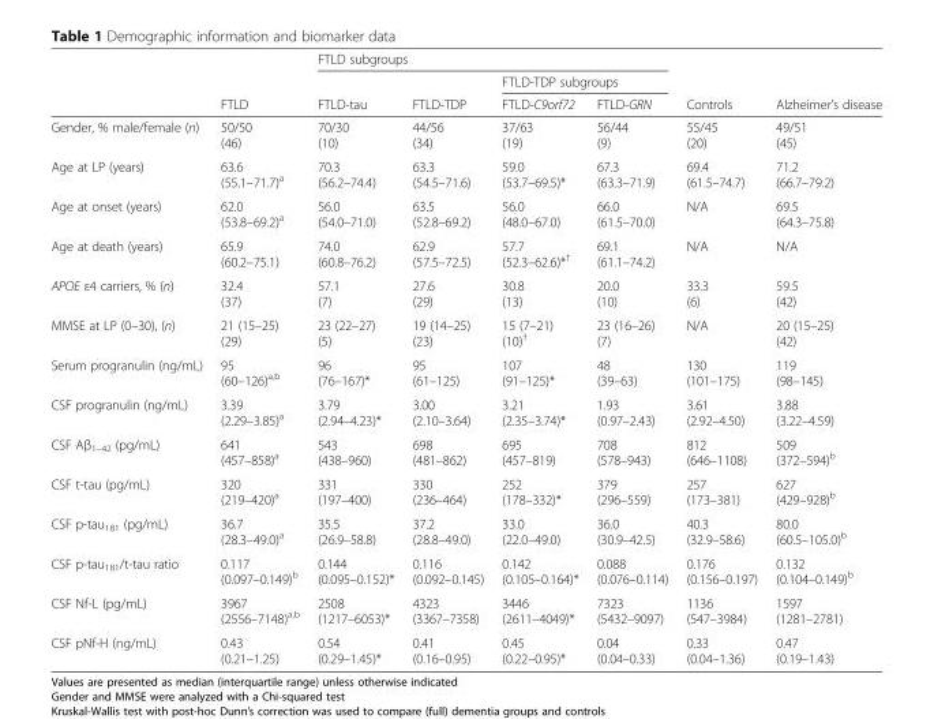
<table><thead><tr><td rowspan="3"></td><td rowspan="3">FTLD</td><td colspan="4">FTLD subgroups</td><td rowspan="3">Controls</td><td rowspan="3">Alzheimer’s disease</td></tr><tr><td rowspan="2">FTLD-tau</td><td rowspan="2">FTLD-TDP</td><td colspan="2">FTLD-TDP subgroups</td></tr><tr><td>FTLD-C9orf72</td><td>FTLD-GRN</td></tr></thead><tbody><tr><td>Gender, % male/female (n)</td><td>50/50 (46)</td><td>70/30 (10)</td><td>44/56 (34)</td><td>37/63 (19)</td><td>56/44 (9)</td><td>55/45 (20)</td><td>49/51 (45)</td></tr><tr><td>Age at LP (years)</td><td>63.6 (55.1–71.7)<sup>a</sup></td><td>70.3 (56.2–74.4)</td><td>63.3 (54.5–71.6)</td><td>59.0 (53.7–69.5)*</td><td>67.3 (63.3–71.9)</td><td>69.4 (61.5–74.7)</td><td>71.2 (66.7–79.2)</td></tr><tr><td>Age at onset (years)</td><td>62.0 (53.8–69.2)<sup>a</sup></td><td>56.0 (54.0–71.0)</td><td>63.5 (52.8–69.2)</td><td>56.0 (48.0–67.0)</td><td>66.0 (61.5–70.0)</td><td>N/A</td><td>69.5 (64.3–75.8)</td></tr><tr><td>Age at death (years)</td><td>65.9 (60.2–75.1)</td><td>74.0 (60.8–76.2)</td><td>62.9 (57.5–72.5)</td><td>57.7 (52.3–62.6)*<sup>†</sup></td><td>69.1 (61.1–74.2)</td><td>N/A</td><td>N/A</td></tr><tr><td>APOE ε4 carriers, % (n)</td><td>32.4 (37)</td><td>57.1 (7)</td><td>27.6 (29)</td><td>30.8 (13)</td><td>20.0 (10)</td><td>33.3 (6)</td><td>59.5 (42)</td></tr><tr><td>MMSE at LP (0–30), (n)</td><td>21 (15–25) (29)</td><td>23 (22–27) (5)</td><td>19 (14–25) (23)</td><td>15 (7–21) (10)<sup>†</sup></td><td>23 (16–26) (7)</td><td>N/A</td><td>20 (15–25) (42)</td></tr><tr><td>Serum progranulin (ng/mL)</td><td>95 (60–126)<sup>a,b</sup></td><td>96 (76–167)*</td><td>95 (61–125)</td><td>107 (91–125)*</td><td>48 (39–63)</td><td>130 (101–175)</td><td>119 (98–145)</td></tr><tr><td>CSF progranulin (ng/mL)</td><td>3.39 (2.29–3.85)<sup>a</sup></td><td>3.79 (2.94–4.23)*</td><td>3.00 (2.10–3.64)</td><td>3.21 (2.35–3.74)*</td><td>1.93 (0.97–2.43)</td><td>3.61 (2.92–4.50)</td><td>3.88 (3.22–4.59)</td></tr><tr><td>CSF Aβ<sub>1–42</sub> (pg/mL)</td><td>641 (457–858)<sup>a</sup></td><td>543 (438–960)</td><td>698 (481–862)</td><td>695 (457–819)</td><td>708 (578–943)</td><td>812 (646–1108)</td><td>509 (372–594)<sup>b</sup></td></tr><tr><td>CSF t-tau (pg/mL)</td><td>320 (219–420)<sup>a</sup></td><td>331 (197–400)</td><td>330 (236–464)</td><td>252 (178–332)*</td><td>379 (296–559)</td><td>257 (173–381)</td><td>627 (429–928)<sup>b</sup></td></tr><tr><td>CSF p-tau<sub>181</sub> (pg/mL)</td><td>36.7 (28.3–49.0)<sup>a</sup></td><td>35.5 (26.9–58.8)</td><td>37.2 (28.8–49.0)</td><td>33.0 (22.0–49.0)</td><td>36.0 (30.9–42.5)</td><td>40.3 (32.9–58.6)</td><td>80.0 (60.5–105.0)<sup>b</sup></td></tr><tr><td>CSF p-tau<sub>181</sub>/t-tau ratio</td><td>0.117 (0.097–0.149)<sup>b</sup></td><td>0.144 (0.095–0.152)*</td><td>0.116 (0.092–0.145)</td><td>0.142 (0.105–0.164)*</td><td>0.088 (0.076–0.114)</td><td>0.176 (0.156–0.197)</td><td>0.132 (0.104–0.149)<sup>b</sup></td></tr><tr><td>CSF Nf-L (pg/mL)</td><td>3967 (2556–7148)<sup>a,b</sup></td><td>2508 (1217–6053)*</td><td>4323 (3367–7358)</td><td>3446 (2611–4049)*</td><td>7323 (5432–9097)</td><td>1136 (547–3984)</td><td>1597 (1281–2781)</td></tr><tr><td>CSF pNf-H (ng/mL)</td><td>0.43 (0.21–1.25)</td><td>0.54 (0.29–1.45)*</td><td>0.41 (0.16–0.95)</td><td>0.45 (0.22–0.95)*</td><td>0.04 (0.04–0.33)</td><td>0.33 (0.04–1.36)</td><td>0.47 (0.19–1.43)</td></tr></tbody></table>